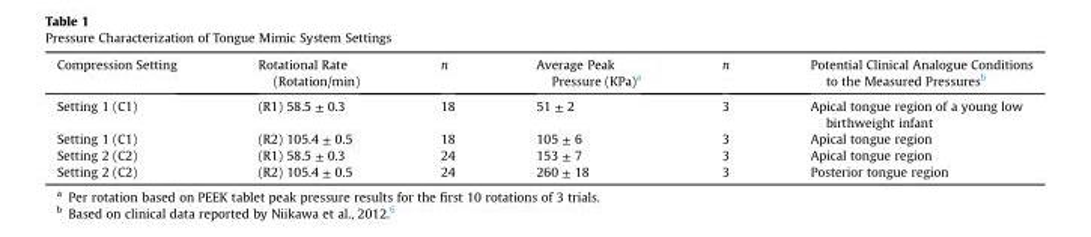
<table><thead><tr><td>Compression Setting</td><td>Rotational Rate (Rotation/min)</td><td>n</td><td>Average Peak Pressure (KPa)<sup>a</sup></td><td>n</td><td>Potential Clinical Analogue Conditions to the Measured Pressures<sup>b</sup></td></tr></thead><tbody><tr><td>Setting 1 (C1)</td><td>(R1) 58.5 ± 0.3</td><td>18</td><td>51 ± 2</td><td>3</td><td>Apical tongue region of a young low birthweight infant</td></tr><tr><td>Setting 1 (C1)</td><td>(R2) 105.4 ± 0.5</td><td>18</td><td>105 ± 6</td><td>3</td><td>Apical tongue region</td></tr><tr><td>Setting 2 (C2)</td><td>(R1) 58.5 ± 0.3</td><td>24</td><td>153 ± 7</td><td>3</td><td>Apical tongue region</td></tr><tr><td>Setting 2 (C2)</td><td>(R2) 105.4 ± 0.5</td><td>24</td><td>260 ± 18</td><td>3</td><td>Posterior tongue region</td></tr></tbody></table>